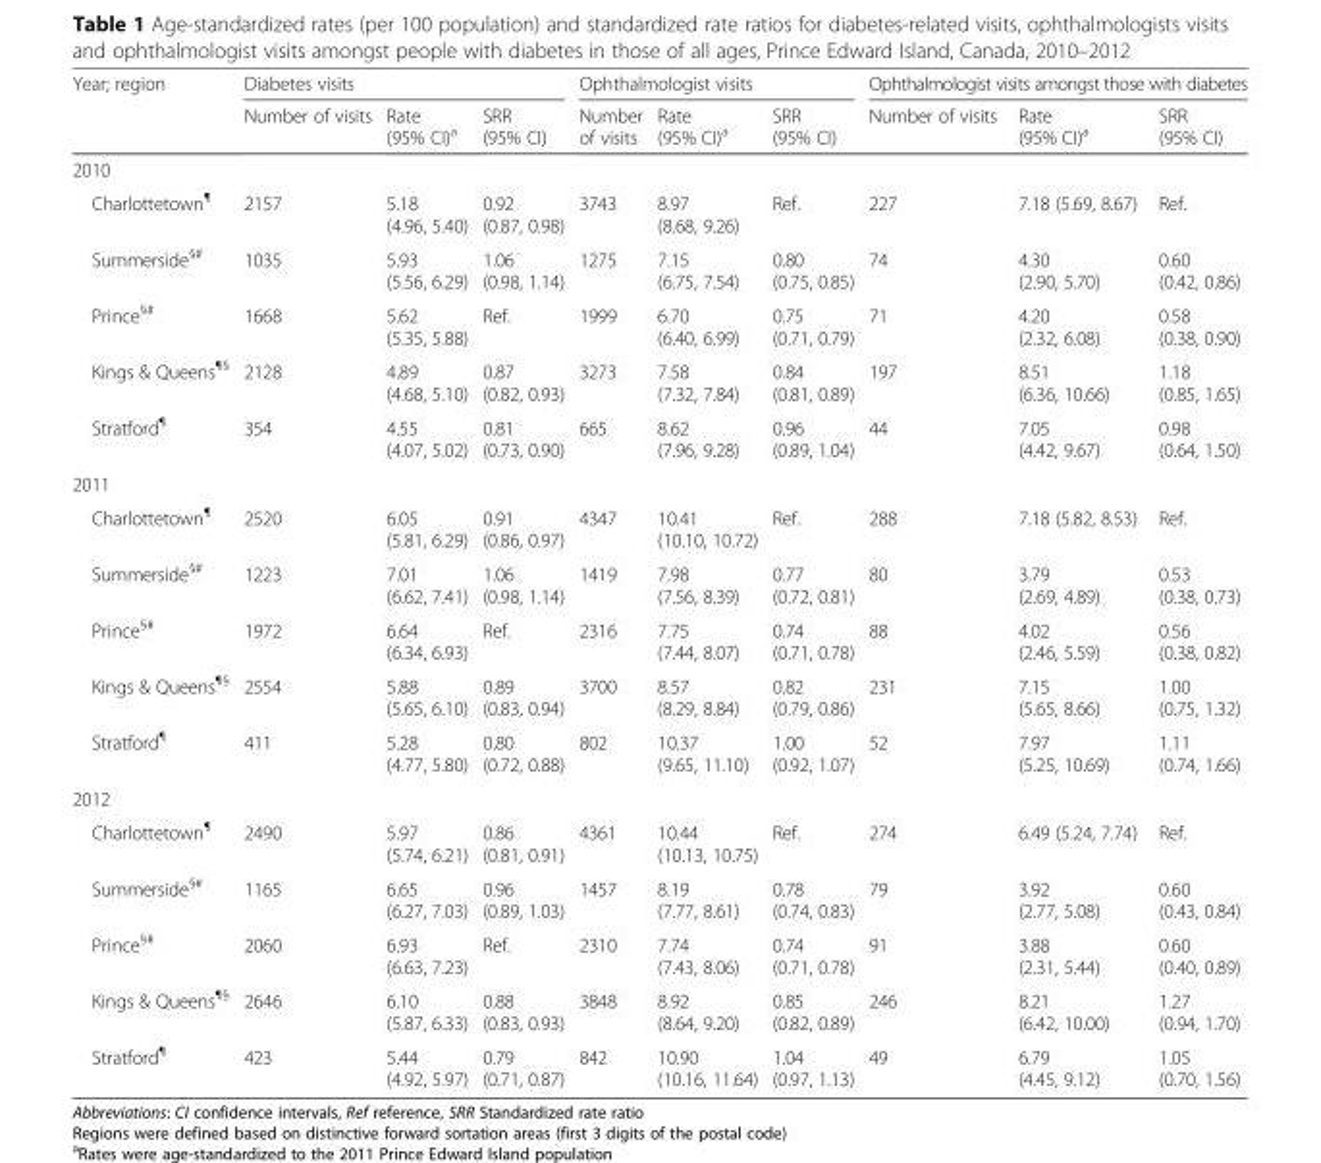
<table><thead><tr><td rowspan="2">Year; region</td><td colspan="3">Diabetes visits</td><td colspan="3">Ophthalmologist visits</td><td colspan="3">Ophthalmologist visits amongst those with diabetes</td></tr><tr><td>Number of visits</td><td>Rate (95% CI)<sup>a</sup></td><td>SRR (95% CI)</td><td>Number of visits</td><td>Rate (95% CI)<sup>a</sup></td><td>SRR (95% CI)</td><td>Number of visits</td><td>Rate (95% CI)<sup>a</sup></td><td>SRR (95% CI)</td></tr></thead><tbody><tr><td colspan="10">2010</td></tr><tr><td>Charlottetown<sup>¶</sup></td><td>2157</td><td>5.18 (4.96, 5.40)</td><td>0.92 (0.87, 0.98)</td><td>3743</td><td>8.97 (8.68, 9.26)</td><td>Ref.</td><td>227</td><td>7.18 (5.69, 8.67)</td><td>Ref.</td></tr><tr><td>Summerside<sup>§#</sup></td><td>1035</td><td>5.93 (5.56, 6.29)</td><td>1.06 (0.98, 1.14)</td><td>1275</td><td>7.15 (6.75, 7.54)</td><td>0.80 (0.75, 0.85)</td><td>74</td><td>4.30 (2.90, 5.70)</td><td>0.60 (0.42, 0.86)</td></tr><tr><td>Prince<sup>§#</sup></td><td>1668</td><td>5.62 (5.35, 5.88)</td><td>Ref.</td><td>1999</td><td>6.70 (6.40, 6.99)</td><td>0.75 (0.71, 0.79)</td><td>71</td><td>4.20 (2.32, 6.08)</td><td>0.58 (0.38, 0.90)</td></tr><tr><td>Kings &amp; Queens<sup>¶§</sup></td><td>2128</td><td>4.89 (4.68, 5.10)</td><td>0.87 (0.82, 0.93)</td><td>3273</td><td>7.58 (7.32, 7.84)</td><td>0.84 (0.81, 0.89)</td><td>197</td><td>8.51 (6.36, 10.66)</td><td>1.18 (0.85, 1.65)</td></tr><tr><td>Stratford<sup>¶</sup></td><td>354</td><td>4.55 (4.07, 5.02)</td><td>0.81 (0.73, 0.90)</td><td>665</td><td>8.62 (7.96, 9.28)</td><td>0.96 (0.89, 1.04)</td><td>44</td><td>7.05 (4.42, 9.67)</td><td>0.98 (0.64, 1.50)</td></tr><tr><td colspan="10">2011</td></tr><tr><td>Charlottetown<sup>¶</sup></td><td>2520</td><td>6.05 (5.81, 6.29)</td><td>0.91 (0.86, 0.97)</td><td>4347</td><td>10.41 (10.10, 10.72)</td><td>Ref.</td><td>288</td><td>7.18 (5.82, 8.53)</td><td>Ref.</td></tr><tr><td>Summerside<sup>§#</sup></td><td>1223</td><td>7.01 (6.62, 7.41)</td><td>1.06 (0.98, 1.14)</td><td>1419</td><td>7.98 (7.56, 8.39)</td><td>0.77 (0.72, 0.81)</td><td>80</td><td>3.79 (2.69, 4.89)</td><td>0.53 (0.38, 0.73)</td></tr><tr><td>Prince<sup>§#</sup></td><td>1972</td><td>6.64 (6.34, 6.93)</td><td>Ref.</td><td>2316</td><td>7.75 (7.44, 8.07)</td><td>0.74 (0.71, 0.78)</td><td>88</td><td>4.02 (2.46, 5.59)</td><td>0.56 (0.38, 0.82)</td></tr><tr><td>Kings &amp; Queens<sup>¶§</sup></td><td>2554</td><td>5.88 (5.65, 6.10)</td><td>0.89 (0.83, 0.94)</td><td>3700</td><td>8.57 (8.29, 8.84)</td><td>0.82 (0.79, 0.86)</td><td>231</td><td>7.15 (5.65, 8.66)</td><td>1.00 (0.75, 1.32)</td></tr><tr><td>Stratford<sup>¶</sup></td><td>411</td><td>5.28 (4.77, 5.80)</td><td>0.80 (0.72, 0.88)</td><td>802</td><td>10.37 (9.65, 11.10)</td><td>1.00 (0.92, 1.07)</td><td>52</td><td>7.97 (5.25, 10.69)</td><td>1.11 (0.74, 1.66)</td></tr><tr><td colspan="10">2012</td></tr><tr><td>Charlottetown<sup>¶</sup></td><td>2490</td><td>5.97 (5.74, 6.21)</td><td>0.86 (0.81, 0.91)</td><td>4361</td><td>10.44 (10.13, 10.75)</td><td>Ref.</td><td>274</td><td>6.49 (5.24, 7.74)</td><td>Ref.</td></tr><tr><td>Summerside<sup>§#</sup></td><td>1165</td><td>6.65 (6.27, 7.03)</td><td>0.96 (0.89, 1.03)</td><td>1457</td><td>8.19 (7.77, 8.61)</td><td>0.78 (0.74, 0.83)</td><td>79</td><td>3.92 (2.77, 5.08)</td><td>0.60 (0.43, 0.84)</td></tr><tr><td>Prince<sup>§#</sup></td><td>2060</td><td>6.93 (6.63, 7.23)</td><td>Ref.</td><td>2310</td><td>7.74 (7.43, 8.06)</td><td>0.74 (0.71, 0.78)</td><td>91</td><td>3.88 (2.31, 5.44)</td><td>0.60 (0.40, 0.89)</td></tr><tr><td>Kings &amp; Queens<sup>¶§</sup></td><td>2646</td><td>6.10 (5.87, 6.33)</td><td>0.88 (0.83, 0.93)</td><td>3848</td><td>8.92 (8.64, 9.20)</td><td>0.85 (0.82, 0.89)</td><td>246</td><td>8.21 (6.42, 10.00)</td><td>1.27 (0.94, 1.70)</td></tr><tr><td>Stratford<sup>¶</sup></td><td>423</td><td>5.44 (4.92, 5.97)</td><td>0.79 (0.71, 0.87)</td><td>842</td><td>10.90 (10.16, 11.64)</td><td>1.04 (0.97, 1.13)</td><td>49</td><td>6.79 (4.45, 9.12)</td><td>1.05 (0.70, 1.56)</td></tr></tbody></table>